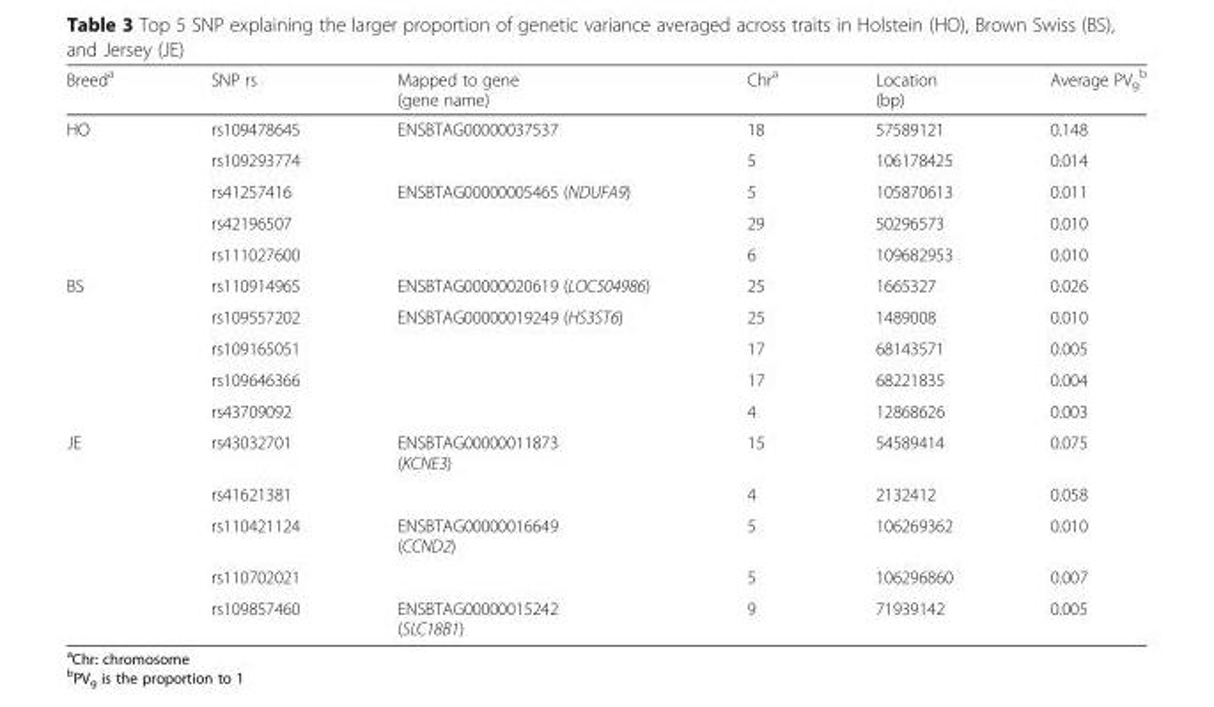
<table><thead><tr><td>Breed<sup>a</sup></td><td>SNP rs</td><td>Mapped to gene (gene name)</td><td>Chr<sup>a</sup></td><td>Location (bp)</td><td>Average PV<sub>g</sub> <sup>b</sup></td></tr></thead><tbody><tr><td rowspan="5">HO</td><td>rs109478645</td><td>ENSBTAG00000037537</td><td>18</td><td>57589121</td><td>0.148</td></tr><tr><td>rs109293774</td><td></td><td>5</td><td>106178425</td><td>0.014</td></tr><tr><td>rs41257416</td><td>ENSBTAG00000005465 (NDUFA9)</td><td>5</td><td>105870613</td><td>0.011</td></tr><tr><td>rs42196507</td><td></td><td>29</td><td>50296573</td><td>0.010</td></tr><tr><td>rs111027600</td><td></td><td>6</td><td>109682953</td><td>0.010</td></tr><tr><td rowspan="5">BS</td><td>rs110914965</td><td>ENSBTAG00000020619 (LOC504986)</td><td>25</td><td>1665327</td><td>0.026</td></tr><tr><td>rs109557202</td><td>ENSBTAG00000019249 (HS3ST6)</td><td>25</td><td>1489008</td><td>0.010</td></tr><tr><td>rs109165051</td><td></td><td>17</td><td>68143571</td><td>0.005</td></tr><tr><td>rs109646366</td><td></td><td>17</td><td>68221835</td><td>0.004</td></tr><tr><td>rs43709092</td><td></td><td>4</td><td>12868626</td><td>0.003</td></tr><tr><td rowspan="5">JE</td><td>rs43032701</td><td>ENSBTAG00000011873 (KCNE3)</td><td>15</td><td>54589414</td><td>0.075</td></tr><tr><td>rs41621381</td><td></td><td>4</td><td>2132412</td><td>0.058</td></tr><tr><td>rs110421124</td><td>ENSBTAG00000016649 (CCND2)</td><td>5</td><td>106269362</td><td>0.010</td></tr><tr><td>rs110702021</td><td></td><td>5</td><td>106296860</td><td>0.007</td></tr><tr><td>rs109857460</td><td>ENSBTAG00000015242 (SLC18B1)</td><td>9</td><td>71939142</td><td>0.005</td></tr></tbody></table>